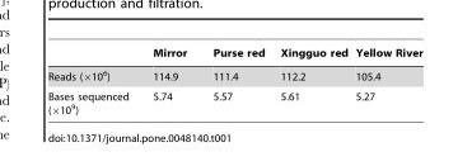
<table><thead><tr><td></td><td>Mirror</td><td>Purse red</td><td>Xingguo red</td><td>Yellow River</td></tr></thead><tbody><tr><td>Reads (×10<sup>6</sup>)</td><td>114.9</td><td>111.4</td><td>112.2</td><td>105.4</td></tr><tr><td>Bases sequenced (×10<sup>9</sup>)</td><td>5.74</td><td>5.57</td><td>5.61</td><td>5.27</td></tr></tbody></table>